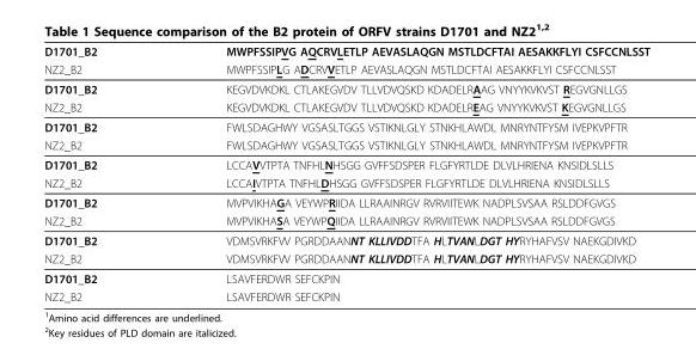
<table><thead><tr><td rowspan="2">D1701_B2 NZ2_B2</td><td rowspan="2">MWPFSSIPVG AQCRVLETLP AEVASLAQGN MSTLDCFTAI AESAKKFLYI CSFCCNLSST MWPFSSIPLG ADCRVVETLP AEVASLAQGN MSTLDCFTAI AESAKKFLYI CSFCCNLSST</td></tr><tr></tr></thead><tbody><tr><td>D1701_B2</td><td>KEGVDVKDKL CTLAKEGVDV TLLVDVQSKD KDADELRAAG VNYYKVKVST REGVGNLLGS</td></tr><tr><td>NZ2_B2</td><td>KEGVDVKDKL CTLAKEGVDV TLLVDVQSKD KDADELREAG VNYYKVKVST KEGVGNLLGS</td></tr><tr><td>D1701_B2</td><td>FWLSDAGHWY VGSASLTGGS VSTIKNLGLY STNKHLAWDL MNRYNTFYSM IVEPKVPFTR</td></tr><tr><td>NZ2_B2</td><td>FWLSDAGHWY VGSASLTGGS VSTIKNLGLY STNKHLAWDL MNRYNTFYSM IVEPKVPFTR</td></tr><tr><td>D1701_B2</td><td>LCCAVVTPTA TNFHLNHSGG GVFFSDSPER FLGFYRTLDE DLVLHRIENA KNSIDLSLLS</td></tr><tr><td>NZ2_B2</td><td>LCCAIVTPTA TNFHLDHSGG GVFFSDSPER FLGFYRTLDE DLVLHRIENA KNSIDLSLLS</td></tr><tr><td>D1701_B2</td><td>MVPVIKHAGA VEYWPRIIDA LLRAAINRGV RVRVIITEWK NADPLSVSAA RSLDDFGVGS</td></tr><tr><td>NZ2_B2</td><td>MVPVIKHASA VEYWPQIIDA LLRAAINRGV RVRVIITEWK NADPLSVSAA RSLDDFGVGS</td></tr><tr><td>D1701_B2</td><td>VDMSVRKFVV PGRDDAANNT KLLIVDDTFA HLTVANLDGT HYRYHAFVSV NAEKGDIVKD</td></tr><tr><td>NZ2_B2</td><td>VDMSVRKFVV PGRDDAANNT KLLIVDDTFA HLTVANLDGT HYRYHAFVSV NAEKGDIVKD</td></tr><tr><td>D1701_B2</td><td>LSAVFERDWR SEFCKPIN</td></tr><tr><td>NZ2_B2</td><td>LSAVFERDWR SEFCKPIN</td></tr></tbody></table>